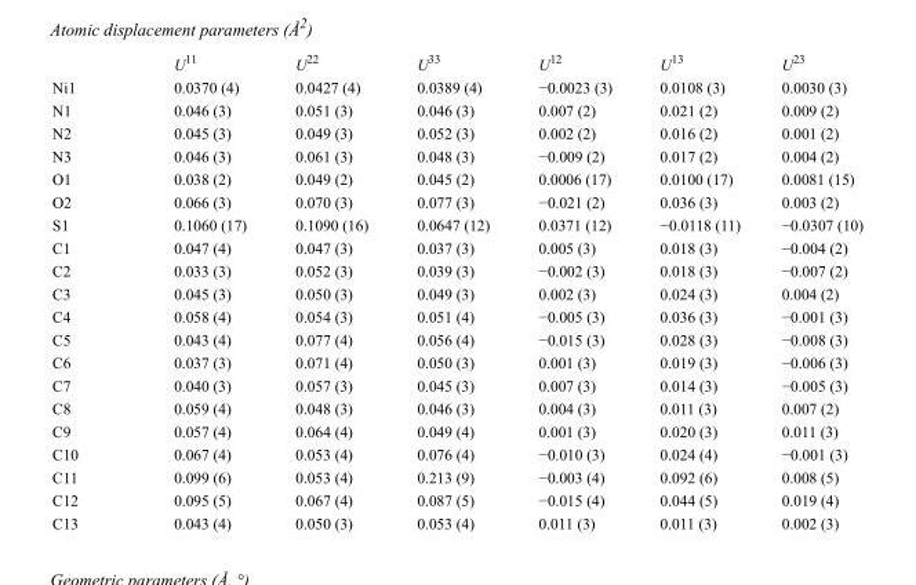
<table><thead><tr><td></td><td>U<sup>11</sup></td><td>U<sup>22</sup></td><td>U<sup>33</sup></td><td>U<sup>12</sup></td><td>U<sup>13</sup></td><td>U<sup>23</sup></td></tr></thead><tbody><tr><td>Ni1</td><td>0.0370 (4)</td><td>0.0427 (4)</td><td>0.0389 (4)</td><td>−0.0023 (3)</td><td>0.0108 (3)</td><td>0.0030 (3)</td></tr><tr><td>N1</td><td>0.046 (3)</td><td>0.051 (3)</td><td>0.046 (3)</td><td>0.007 (2)</td><td>0.021 (2)</td><td>0.009 (2)</td></tr><tr><td>N2</td><td>0.045 (3)</td><td>0.049 (3)</td><td>0.052 (3)</td><td>0.002 (2)</td><td>0.016 (2)</td><td>0.001 (2)</td></tr><tr><td>N3</td><td>0.046 (3)</td><td>0.061 (3)</td><td>0.048 (3)</td><td>−0.009 (2)</td><td>0.017 (2)</td><td>0.004 (2)</td></tr><tr><td>O1</td><td>0.038 (2)</td><td>0.049 (2)</td><td>0.045 (2)</td><td>0.0006 (17)</td><td>0.0100 (17)</td><td>0.0081 (15)</td></tr><tr><td>O2</td><td>0.066 (3)</td><td>0.070 (3)</td><td>0.077 (3)</td><td>−0.021 (2)</td><td>0.036 (3)</td><td>0.003 (2)</td></tr><tr><td>S1</td><td>0.1060 (17)</td><td>0.1090 (16)</td><td>0.0647 (12)</td><td>0.0371 (12)</td><td>−0.0118 (11)</td><td>−0.0307 (10)</td></tr><tr><td>C1</td><td>0.047 (4)</td><td>0.047 (3)</td><td>0.037 (3)</td><td>0.005 (3)</td><td>0.018 (3)</td><td>−0.004 (2)</td></tr><tr><td>C2</td><td>0.033 (3)</td><td>0.052 (3)</td><td>0.039 (3)</td><td>−0.002 (3)</td><td>0.018 (3)</td><td>−0.007 (2)</td></tr><tr><td>C3</td><td>0.045 (3)</td><td>0.050 (3)</td><td>0.049 (3)</td><td>0.002 (3)</td><td>0.024 (3)</td><td>0.004 (2)</td></tr><tr><td>C4</td><td>0.058 (4)</td><td>0.054 (3)</td><td>0.051 (4)</td><td>−0.005 (3)</td><td>0.036 (3)</td><td>−0.001 (3)</td></tr><tr><td>C5</td><td>0.043 (4)</td><td>0.077 (4)</td><td>0.056 (4)</td><td>−0.015 (3)</td><td>0.028 (3)</td><td>−0.008 (3)</td></tr><tr><td>C6</td><td>0.037 (3)</td><td>0.071 (4)</td><td>0.050 (3)</td><td>0.001 (3)</td><td>0.019 (3)</td><td>−0.006 (3)</td></tr><tr><td>C7</td><td>0.040 (3)</td><td>0.057 (3)</td><td>0.045 (3)</td><td>0.007 (3)</td><td>0.014 (3)</td><td>−0.005 (3)</td></tr><tr><td>C8</td><td>0.059 (4)</td><td>0.048 (3)</td><td>0.046 (3)</td><td>0.004 (3)</td><td>0.011 (3)</td><td>0.007 (2)</td></tr><tr><td>C9</td><td>0.057 (4)</td><td>0.064 (4)</td><td>0.049 (4)</td><td>0.001 (3)</td><td>0.020 (3)</td><td>0.011 (3)</td></tr><tr><td>C10</td><td>0.067 (4)</td><td>0.053 (4)</td><td>0.076 (4)</td><td>−0.010 (3)</td><td>0.024 (4)</td><td>−0.001 (3)</td></tr><tr><td>C11</td><td>0.099 (6)</td><td>0.053 (4)</td><td>0.213 (9)</td><td>−0.003 (4)</td><td>0.092 (6)</td><td>0.008 (5)</td></tr><tr><td>C12</td><td>0.095 (5)</td><td>0.067 (4)</td><td>0.087 (5)</td><td>−0.015 (4)</td><td>0.044 (5)</td><td>0.019 (4)</td></tr><tr><td>C13</td><td>0.043 (4)</td><td>0.050 (3)</td><td>0.053 (4)</td><td>0.011 (3)</td><td>0.011 (3)</td><td>0.002 (3)</td></tr></tbody></table>